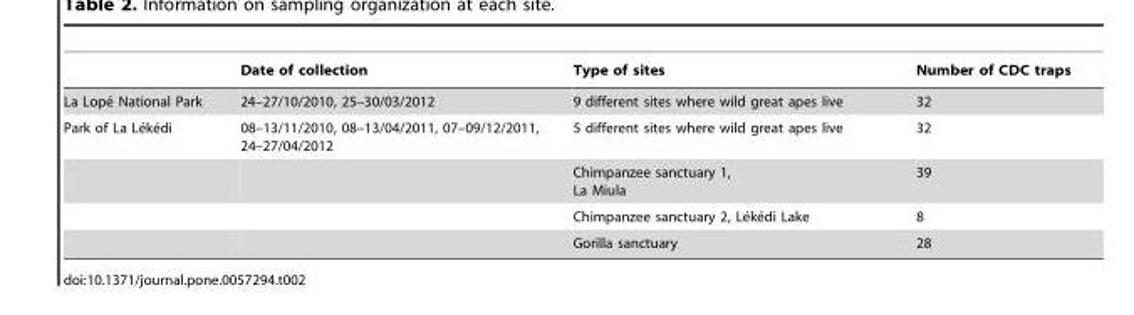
<table><thead><tr><td></td><td>Date of collection</td><td>Type of sites</td><td>Number of CDC traps</td></tr></thead><tbody><tr><td>La Lope´ National Park</td><td>24–27/10/2010, 25–30/03/2012</td><td>9 different sites where wild great apes live</td><td>32</td></tr><tr><td rowspan="4">Park of La Le´ke´di</td><td>08–13/11/2010, 08–13/04/2011, 07–09/12/2011, 24–27/04/2012</td><td>5 different sites where wild great apes live</td><td>32</td></tr><tr><td></td><td>Chimpanzee sanctuary 1, La Miula</td><td>39</td></tr><tr><td></td><td>Chimpanzee sanctuary 2, Le´ke´di Lake</td><td>8</td></tr><tr><td></td><td>Gorilla sanctuary</td><td>28</td></tr></tbody></table>